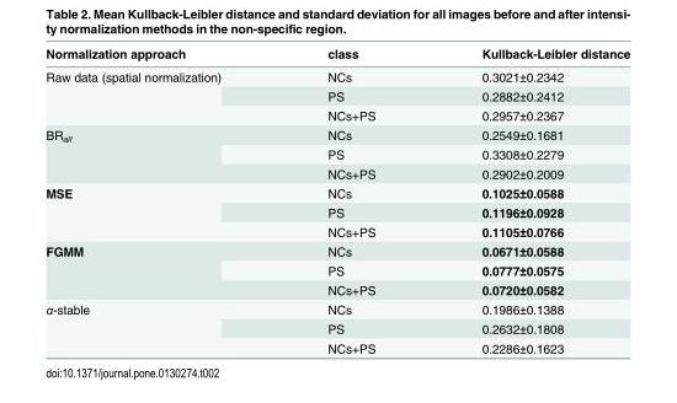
<table><thead><tr><td>Normalization approach</td><td>class</td><td>Kullback-Leibler distance</td></tr></thead><tbody><tr><td rowspan="3">Raw data (spatial normalization)</td><td>NCs</td><td>0.3021±0.2342</td></tr><tr><td>PS</td><td>0.2882±0.2412</td></tr><tr><td>NCs+PS</td><td>0.2957±0.2367</td></tr><tr><td rowspan="3">BR<sub>all</sub></td><td>NCs</td><td>0.2549±0.1681</td></tr><tr><td>PS</td><td>0.3308±0.2279</td></tr><tr><td>NCs+PS</td><td>0.2902±0.2009</td></tr><tr><td rowspan="3">MSE</td><td>NCs</td><td>0.1025±0.0588</td></tr><tr><td>PS</td><td>0.1196±0.0928</td></tr><tr><td>NCs+PS</td><td>0.1105±0.0766</td></tr><tr><td rowspan="3">FGMM</td><td>NCs</td><td>0.0671±0.0588</td></tr><tr><td>PS</td><td>0.0777±0.0575</td></tr><tr><td>NCs+PS</td><td>0.0720±0.0582</td></tr><tr><td rowspan="3">α-stable</td><td>NCs</td><td>0.1986±0.1388</td></tr><tr><td>PS</td><td>0.2632±0.1808</td></tr><tr><td>NCs+PS</td><td>0.2286±0.1623</td></tr></tbody></table>